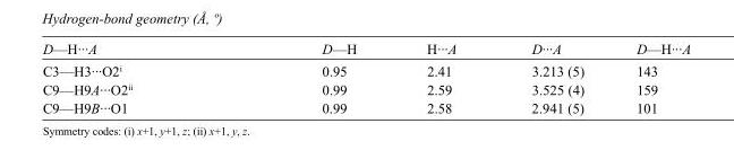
<table><tbody><tr><td>D—H···A</td><td>D—H</td><td>H···A</td><td>D···A</td><td>D—H···A</td></tr><tr><td>C3—H3···O2<sup>i</sup></td><td>0.95</td><td>2.41</td><td>3.213 (5)</td><td>143</td></tr><tr><td>C9—H9A···O2<sup>ii</sup></td><td>0.99</td><td>2.59</td><td>3.525 (4)</td><td>159</td></tr><tr><td>C9—H9B···O1</td><td>0.99</td><td>2.58</td><td>2.941 (5)</td><td>101</td></tr></tbody></table>